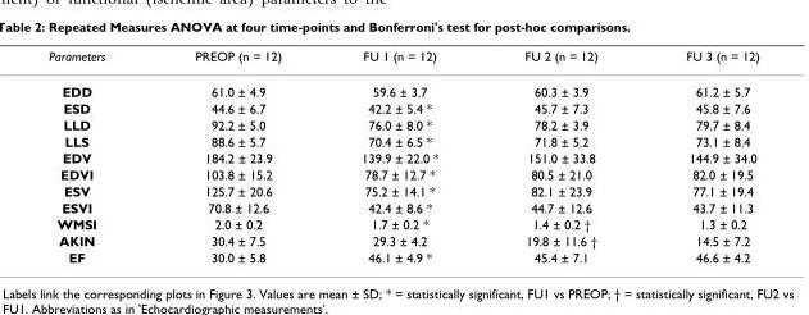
<table><thead><tr><td>Parameters</td><td>PREOP (n = 12)</td><td>FU 1 (n = 12)</td><td>FU 2 (n = 12)</td><td>FU 3 (n = 12)</td></tr></thead><tbody><tr><td>EDD</td><td>61.0 ± 4.9</td><td>59.6 ± 3.7</td><td>60.3 ± 3.9</td><td>61.2 ± 5.7</td></tr><tr><td>ESD</td><td>44.6 ± 6.7</td><td>42.2 ± 5.4 *</td><td>45.7 ± 7.3</td><td>45.8 ± 7.6</td></tr><tr><td>LLD</td><td>92.2 ± 5.0</td><td>76.0 ± 8.0 *</td><td>78.2 ± 3.9</td><td>79.7 ± 8.4</td></tr><tr><td>LLS</td><td>88.6 ± 5.7</td><td>70.4 ± 6.5 *</td><td>71.8 ± 5.2</td><td>73.1 ± 8.4</td></tr><tr><td>EDV</td><td>184.2 ± 23.9</td><td>139.9 ± 22.0 *</td><td>151.0 ± 33.8</td><td>144.9 ± 34.0</td></tr><tr><td>EDVI</td><td>103.8 ± 15.2</td><td>78.7 ± 12.7 *</td><td>80.5 ± 21.0</td><td>82.0 ± 19.5</td></tr><tr><td>ESV</td><td>125.7 ± 20.6</td><td>75.2 ± 14.1 *</td><td>82.1 ± 23.9</td><td>77.1 ± 19.4</td></tr><tr><td>ESVI</td><td>70.8 ± 12.6</td><td>42.4 ± 8.6 *</td><td>44.7 ± 12.6</td><td>43.7 ± 11.3</td></tr><tr><td>WMSI</td><td>2.0 ± 0.2</td><td>1.7 ± 0.2 *</td><td>1.4 ± 0.2 †</td><td>1.3 ± 0.2</td></tr><tr><td>AKIN</td><td>30.4 ± 7.5</td><td>29.3 ± 4.2</td><td>19.8 ± 11.6 †</td><td>14.5 ± 7.2</td></tr><tr><td>EF</td><td>30.0 ± 5.8</td><td>46.1 ± 4.9 *</td><td>45.4 ± 7.1</td><td>46.6 ± 4.2</td></tr></tbody></table>